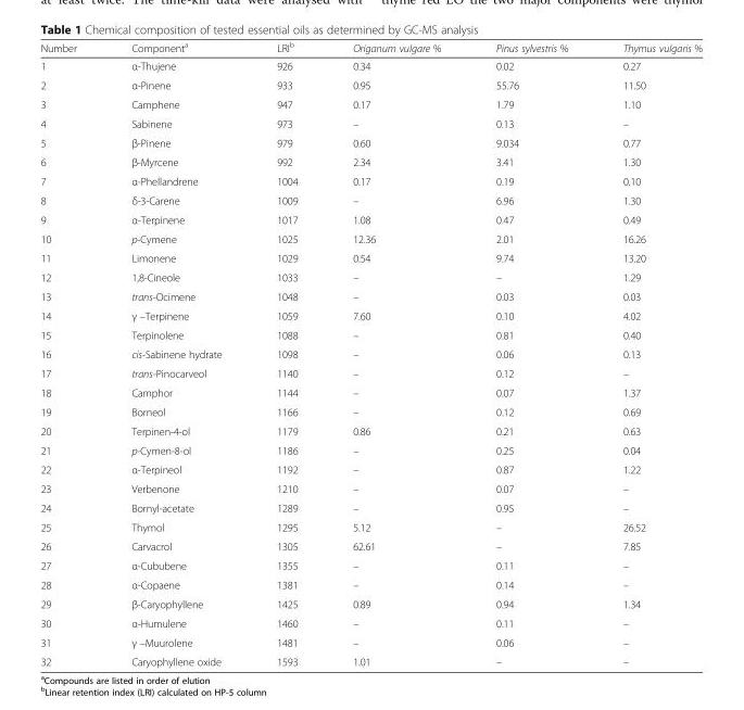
<table><thead><tr><td>Number</td><td>Component<sup>a</sup></td><td>LRI<sup>b</sup></td><td>Origanum vulgare %</td><td>Pinus sylvestris %</td><td>Thymus vulgaris %</td></tr></thead><tbody><tr><td>1</td><td>α-Thujene</td><td>926</td><td>0.34</td><td>0.02</td><td>0.27</td></tr><tr><td>2</td><td>α-Pinene</td><td>933</td><td>0.95</td><td>55.76</td><td>11.50</td></tr><tr><td>3</td><td>Camphene</td><td>947</td><td>0.17</td><td>1.79</td><td>1.10</td></tr><tr><td>4</td><td>Sabinene</td><td>973</td><td>–</td><td>0.13</td><td>–</td></tr><tr><td>5</td><td>β-Pinene</td><td>979</td><td>0.60</td><td>9.034</td><td>0.77</td></tr><tr><td>6</td><td>β-Myrcene</td><td>992</td><td>2.34</td><td>3.41</td><td>1.30</td></tr><tr><td>7</td><td>α-Phellandrene</td><td>1004</td><td>0.17</td><td>0.19</td><td>0.10</td></tr><tr><td>8</td><td>δ-3-Carene</td><td>1009</td><td>–</td><td>6.96</td><td>1.30</td></tr><tr><td>9</td><td>α-Terpinene</td><td>1017</td><td>1.08</td><td>0.47</td><td>0.49</td></tr><tr><td>10</td><td>p-Cymene</td><td>1025</td><td>12.36</td><td>2.01</td><td>16.26</td></tr><tr><td>11</td><td>Limonene</td><td>1029</td><td>0.54</td><td>9.74</td><td>13.20</td></tr><tr><td>12</td><td>1,8-Cineole</td><td>1033</td><td>–</td><td>–</td><td>1.29</td></tr><tr><td>13</td><td>trans-Ocimene</td><td>1048</td><td>–</td><td>0.03</td><td>0.03</td></tr><tr><td>14</td><td>γ –Terpinene</td><td>1059</td><td>7.60</td><td>0.10</td><td>4.02</td></tr><tr><td>15</td><td>Terpinolene</td><td>1088</td><td>–</td><td>0.81</td><td>0.40</td></tr><tr><td>16</td><td>cis-Sabinene hydrate</td><td>1098</td><td>–</td><td>0.06</td><td>0.13</td></tr><tr><td>17</td><td>trans-Pinocarveol</td><td>1140</td><td>–</td><td>0.12</td><td>–</td></tr><tr><td>18</td><td>Camphor</td><td>1144</td><td>–</td><td>0.07</td><td>1.37</td></tr><tr><td>19</td><td>Borneol</td><td>1166</td><td>–</td><td>0.12</td><td>0.69</td></tr><tr><td>20</td><td>Terpinen-4-ol</td><td>1179</td><td>0.86</td><td>0.21</td><td>0.63</td></tr><tr><td>21</td><td>p-Cymen-8-ol</td><td>1186</td><td>–</td><td>0.25</td><td>0.04</td></tr><tr><td>22</td><td>α-Terpineol</td><td>1192</td><td>–</td><td>0.87</td><td>1.22</td></tr><tr><td>23</td><td>Verbenone</td><td>1210</td><td>–</td><td>0.07</td><td>–</td></tr><tr><td>24</td><td>Bornyl-acetate</td><td>1289</td><td>–</td><td>0.95</td><td>–</td></tr><tr><td>25</td><td>Thymol</td><td>1295</td><td>5.12</td><td>–</td><td>26.52</td></tr><tr><td>26</td><td>Carvacrol</td><td>1305</td><td>62.61</td><td>–</td><td>7.85</td></tr><tr><td>27</td><td>α-Cububene</td><td>1355</td><td>–</td><td>0.11</td><td>–</td></tr><tr><td>28</td><td>α-Copaene</td><td>1381</td><td>–</td><td>0.14</td><td>–</td></tr><tr><td>29</td><td>β-Caryophyllene</td><td>1425</td><td>0.89</td><td>0.94</td><td>1.34</td></tr><tr><td>30</td><td>α-Humulene</td><td>1460</td><td>–</td><td>0.11</td><td>–</td></tr><tr><td>31</td><td>γ –Muurolene</td><td>1481</td><td>–</td><td>0.06</td><td>–</td></tr><tr><td>32</td><td>Caryophyllene oxide</td><td>1593</td><td>1.01</td><td>–</td><td>–</td></tr></tbody></table>